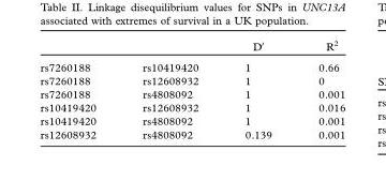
<table><thead><tr><td></td><td></td><td>D′</td><td>R<sup>2</sup></td></tr></thead><tbody><tr><td>rs7260188</td><td>rs10419420</td><td>1</td><td>0.66</td></tr><tr><td>rs7260188</td><td>rs12608932</td><td>1</td><td>0</td></tr><tr><td>rs7260188</td><td>rs4808092</td><td>1</td><td>0.001</td></tr><tr><td>rs10419420</td><td>rs12608932</td><td>1</td><td>0.016</td></tr><tr><td>rs10419420</td><td>rs4808092</td><td>1</td><td>0.001</td></tr><tr><td>rs12608932</td><td>rs4808092</td><td>0.139</td><td>0.001</td></tr></tbody></table>